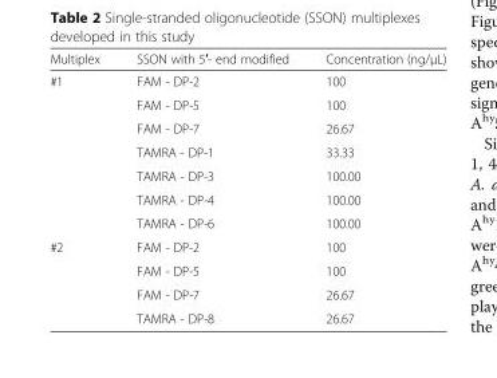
<table><thead><tr><td>Multiplex</td><td>SSON with 5′- end modified</td><td>Concentration (ng/μL)</td></tr></thead><tbody><tr><td rowspan="7">#1</td><td>FAM - DP-2</td><td>100</td></tr><tr><td>FAM - DP-5</td><td>100</td></tr><tr><td>FAM - DP-7</td><td>26.67</td></tr><tr><td>TAMRA - DP-1</td><td>33.33</td></tr><tr><td>TAMRA - DP-3</td><td>100.00</td></tr><tr><td>TAMRA - DP-4</td><td>100.00</td></tr><tr><td>TAMRA - DP-6</td><td>100.00</td></tr><tr><td rowspan="4">#2</td><td>FAM - DP-2</td><td>100</td></tr><tr><td>FAM - DP-5</td><td>100</td></tr><tr><td>FAM - DP-7</td><td>26.67</td></tr><tr><td>TAMRA - DP-8</td><td>26.67</td></tr></tbody></table>